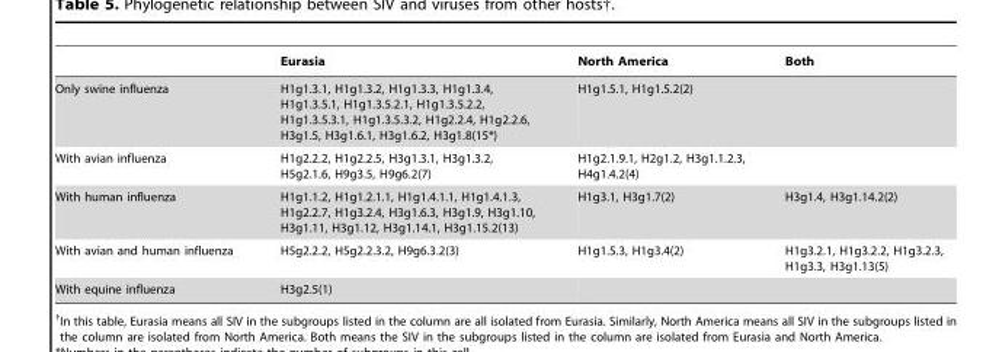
<table><thead><tr><td></td><td>Eurasia</td><td>North America</td><td>Both</td></tr></thead><tbody><tr><td>Only swine influenza</td><td>H1g1.3.1, H1g1.3.2, H1g1.3.3, H1g1.3.4, H1g1.3.5.1, H1g1.3.5.2.1, H1g1.3.5.2.2, H1g1.3.5.3.1, H1g1.3.5.3.2, H1g2.2.4, H1g2.2.6, H3g1.5, H3g1.6.1, H3g1.6.2, H3g1.8(15*)</td><td>H1g1.5.1, H1g1.5.2(2)</td><td></td></tr><tr><td>With avian influenza</td><td>H1g2.2.2, H1g2.2.5, H3g1.3.1, H3g1.3.2, H5g2.1.6, H9g3.5, H9g6.2(7)</td><td>H1g2.1.9.1, H2g1.2, H3g1.1.2.3, H4g1.4.2(4)</td><td></td></tr><tr><td>With human influenza</td><td>H1g1.1.2, H1g1.2.1.1, H1g1.4.1.1, H1g1.4.1.3, H1g2.2.7, H1g3.2.4, H3g1.6.3, H3g1.9, H3g1.10, H3g1.11, H3g1.12, H3g1.14.1, H3g1.15.2(13)</td><td>H1g3.1, H3g1.7(2)</td><td>H3g1.4, H3g1.14.2(2)</td></tr><tr><td>With avian and human influenza</td><td>H5g2.2.2, H5g2.2.3.2, H9g6.3.2(3)</td><td>H1g1.5.3, H1g3.4(2)</td><td>H1g3.2.1, H1g3.2.2, H1g3.2.3, H1g3.3, H3g1.13(5)</td></tr><tr><td>With equine influenza</td><td>H3g2.5(1)</td><td></td><td></td></tr></tbody></table>